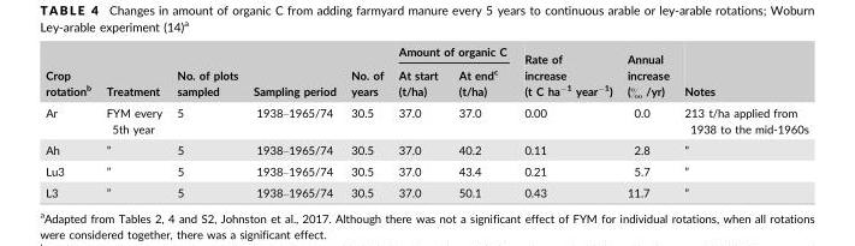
<table><thead><tr><td rowspan="2">Crop rotation<sup>b</sup></td><td rowspan="2">Treatment</td><td rowspan="2">No. of plots sampled</td><td rowspan="2">Sampling period</td><td rowspan="2">No. of years</td><td colspan="2">Amount of organic C</td><td rowspan="2">Rate of increase (t C ha<sup>−1</sup> year<sup>−1</sup>)</td><td rowspan="2">Annual increase (‰ /yr)</td><td rowspan="2">Notes</td></tr><tr><td>At start (t/ha)</td><td>At end<sup>c</sup> (t/ha)</td></tr></thead><tbody><tr><td>Ar</td><td>FYM every 5th year</td><td>5</td><td>1938–1965/74</td><td>30.5</td><td>37.0</td><td>37.0</td><td>0.00</td><td>0.0</td><td>213 t/ha applied from 1938 to the mid-1960s</td></tr><tr><td>Ah</td><td>”</td><td>5</td><td>1938–1965/74</td><td>30.5</td><td>37.0</td><td>40.2</td><td>0.11</td><td>2.8</td><td>”</td></tr><tr><td>Lu3</td><td>”</td><td>5</td><td>1938–1965/74</td><td>30.5</td><td>37.0</td><td>43.4</td><td>0.21</td><td>5.7</td><td>”</td></tr><tr><td>L3</td><td>”</td><td>5</td><td>1938–1965/74</td><td>30.5</td><td>37.0</td><td>50.1</td><td>0.43</td><td>11.7</td><td>”</td></tr></tbody></table>